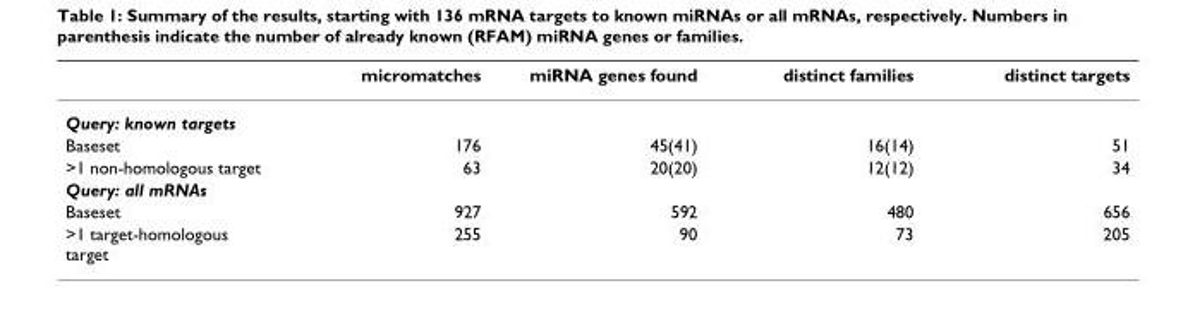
<table><thead><tr><td></td><td>micromatches</td><td>miRNA genes found</td><td>distinct families</td><td>distinct targets</td></tr></thead><tbody><tr><td colspan="5">Query: known targets</td></tr><tr><td>Baseset</td><td>176</td><td>45(41)</td><td>16(14)</td><td>51</td></tr><tr><td>&gt;1 non-homologous target</td><td>63</td><td>20(20)</td><td>12(12)</td><td>34</td></tr><tr><td colspan="5">Query: all mRNAs</td></tr><tr><td>Baseset</td><td>927</td><td>592</td><td>480</td><td>656</td></tr><tr><td>&gt;1 target-homologous target</td><td>255</td><td>90</td><td>73</td><td>205</td></tr></tbody></table>